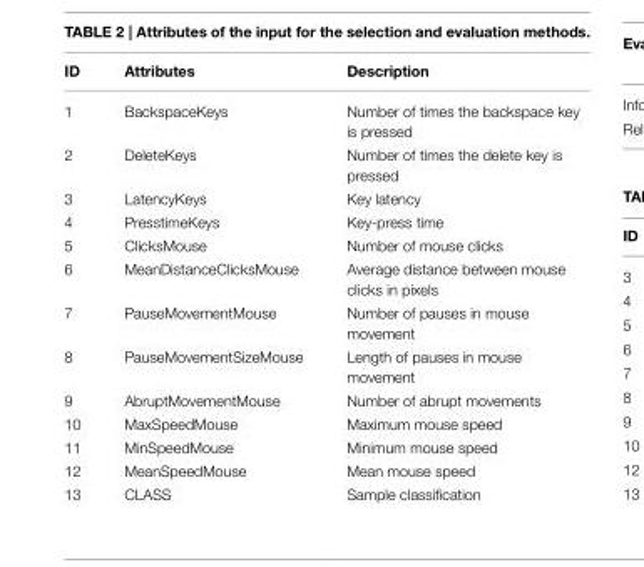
<table><thead><tr><td>ID</td><td>Attributes</td><td>Description</td></tr></thead><tbody><tr><td>1</td><td>BackspaceKeys</td><td>Number of times the backspace key is pressed</td></tr><tr><td>2</td><td>DeleteKeys</td><td>Number of times the delete key is pressed</td></tr><tr><td>3</td><td>LatencyKeys</td><td>Key latency</td></tr><tr><td>4</td><td>PresstimeKeys</td><td>Key-press time</td></tr><tr><td>5</td><td>ClicksMouse</td><td>Number of mouse clicks</td></tr><tr><td>6</td><td>MeanDistanceClicksMouse</td><td>Average distance between mouse clicks in pixels</td></tr><tr><td>7</td><td>PauseMovementMouse</td><td>Number of pauses in mouse movement</td></tr><tr><td>8</td><td>PauseMovementSizeMouse</td><td>Length of pauses in mouse movement</td></tr><tr><td>9</td><td>AbruptMovementMouse</td><td>Number of abrupt movements</td></tr><tr><td>10</td><td>MaxSpeedMouse</td><td>Maximum mouse speed</td></tr><tr><td>11</td><td>MinSpeedMouse</td><td>Minimum mouse speed</td></tr><tr><td>12</td><td>MeanSpeedMouse</td><td>Mean mouse speed</td></tr><tr><td>13</td><td>CLASS</td><td>Sample classification</td></tr></tbody></table>